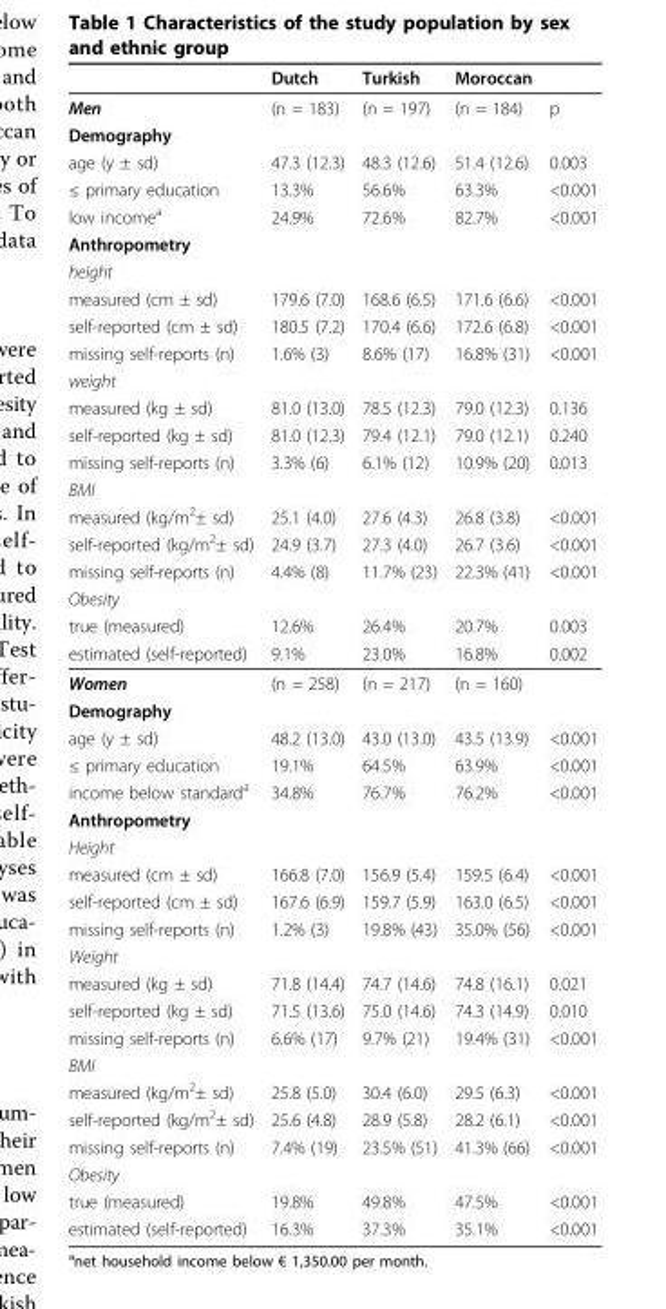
<table><thead><tr><td></td><td>Dutch</td><td>Turkish</td><td>Moroccan</td><td></td></tr></thead><tbody><tr><td>Men</td><td>(n = 183)</td><td>(n = 197)</td><td>(n = 184)</td><td>p</td></tr><tr><td colspan="5">Demography</td></tr><tr><td>age (y ± sd)</td><td>47.3 (12.3)</td><td>48.3 (12.6)</td><td>51.4 (12.6)</td><td>0.003</td></tr><tr><td>≤ primary education</td><td>13.3%</td><td>56.6%</td><td>63.3%</td><td>&lt;0.001</td></tr><tr><td>low income<sup>a</sup></td><td>24.9%</td><td>72.6%</td><td>82.7%</td><td>&lt;0.001</td></tr><tr><td colspan="5">Anthropometry</td></tr><tr><td colspan="5">height</td></tr><tr><td>measured (cm ± sd)</td><td>179.6 (7.0)</td><td>168.6 (6.5)</td><td>171.6 (6.6)</td><td>&lt;0.001</td></tr><tr><td>self-reported (cm ± sd)</td><td>180.5 (7.2)</td><td>170.4 (6.6)</td><td>172.6 (6.8)</td><td>&lt;0.001</td></tr><tr><td>missing self-reports (n)</td><td>1.6% (3)</td><td>8.6% (17)</td><td>16.8% (31)</td><td>&lt;0.001</td></tr><tr><td colspan="5">weight</td></tr><tr><td>measured (kg ± sd)</td><td>81.0 (13.0)</td><td>78.5 (12.3)</td><td>79.0 (12.3)</td><td>0.136</td></tr><tr><td>self-reported (kg ± sd)</td><td>81.0 (12.3)</td><td>79.4 (12.1)</td><td>79.0 (12.1)</td><td>0.240</td></tr><tr><td>missing self-reports (n)</td><td>3.3% (6)</td><td>6.1% (12)</td><td>10.9% (20)</td><td>0.013</td></tr><tr><td colspan="5">BMI</td></tr><tr><td>measured (kg/m<sup>2</sup>± sd)</td><td>25.1 (4.0)</td><td>27.6 (4.3)</td><td>26.8 (3.8)</td><td>&lt;0.001</td></tr><tr><td>self-reported (kg/m<sup>2</sup>± sd)</td><td>24.9 (3.7)</td><td>27.3 (4.0)</td><td>26.7 (3.6)</td><td>&lt;0.001</td></tr><tr><td>missing self-reports (n)</td><td>4.4% (8)</td><td>11.7% (23)</td><td>22.3% (41)</td><td>&lt;0.001</td></tr><tr><td colspan="5">Obesity</td></tr><tr><td>true (measured)</td><td>12.6%</td><td>26.4%</td><td>20.7%</td><td>0.003</td></tr><tr><td>estimated (self-reported)</td><td>9.1%</td><td>23.0%</td><td>16.8%</td><td>0.002</td></tr><tr><td>Women</td><td>(n = 258)</td><td>(n = 217)</td><td>(n = 160)</td><td></td></tr><tr><td colspan="5">Demography</td></tr><tr><td>age (y ± sd)</td><td>48.2 (13.0)</td><td>43.0 (13.0)</td><td>43.5 (13.9)</td><td>&lt;0.001</td></tr><tr><td>≤ primary education</td><td>19.1%</td><td>64.5%</td><td>63.9%</td><td>&lt;0.001</td></tr><tr><td>income below standard<sup>a</sup></td><td>34.8%</td><td>76.7%</td><td>76.2%</td><td>&lt;0.001</td></tr><tr><td colspan="5">Anthropometry</td></tr><tr><td colspan="5">Height</td></tr><tr><td>measured (cm ± sd)</td><td>166.8 (7.0)</td><td>156.9 (5.4)</td><td>159.5 (6.4)</td><td>&lt;0.001</td></tr><tr><td>self-reported (cm ± sd)</td><td>167.6 (6.9)</td><td>159.7 (5.9)</td><td>163.0 (6.5)</td><td>&lt;0.001</td></tr><tr><td>missing self-reports (n)</td><td>1.2% (3)</td><td>19.8% (43)</td><td>35.0% (56)</td><td>&lt;0.001</td></tr><tr><td colspan="5">Weight</td></tr><tr><td>measured (kg ± sd)</td><td>71.8 (14.4)</td><td>74.7 (14.6)</td><td>74.8 (16.1)</td><td>0.021</td></tr><tr><td>self-reported (kg ± sd)</td><td>71.5 (13.6)</td><td>75.0 (14.6)</td><td>74.3 (14.9)</td><td>0.010</td></tr><tr><td>missing self-reports (n)</td><td>6.6% (17)</td><td>9.7% (21)</td><td>19.4% (31)</td><td>&lt;0.001</td></tr><tr><td colspan="5">BMI</td></tr><tr><td>measured (kg/m<sup>2</sup>± sd)</td><td>25.8 (5.0)</td><td>30.4 (6.0)</td><td>29.5 (6.3)</td><td>&lt;0.001</td></tr><tr><td>self-reported (kg/m<sup>2</sup>± sd)</td><td>25.6 (4.8)</td><td>28.9 (5.8)</td><td>28.2 (6.1)</td><td>&lt;0.001</td></tr><tr><td>missing self-reports (n)</td><td>7.4% (19)</td><td>23.5% (51)</td><td>41.3% (66)</td><td>&lt;0.001</td></tr><tr><td colspan="5">Obesity</td></tr><tr><td>true (measured)</td><td>19.8%</td><td>49.8%</td><td>47.5%</td><td>&lt;0.001</td></tr><tr><td>estimated (self-reported)</td><td>16.3%</td><td>37.3%</td><td>35.1%</td><td>&lt;0.001</td></tr></tbody></table>